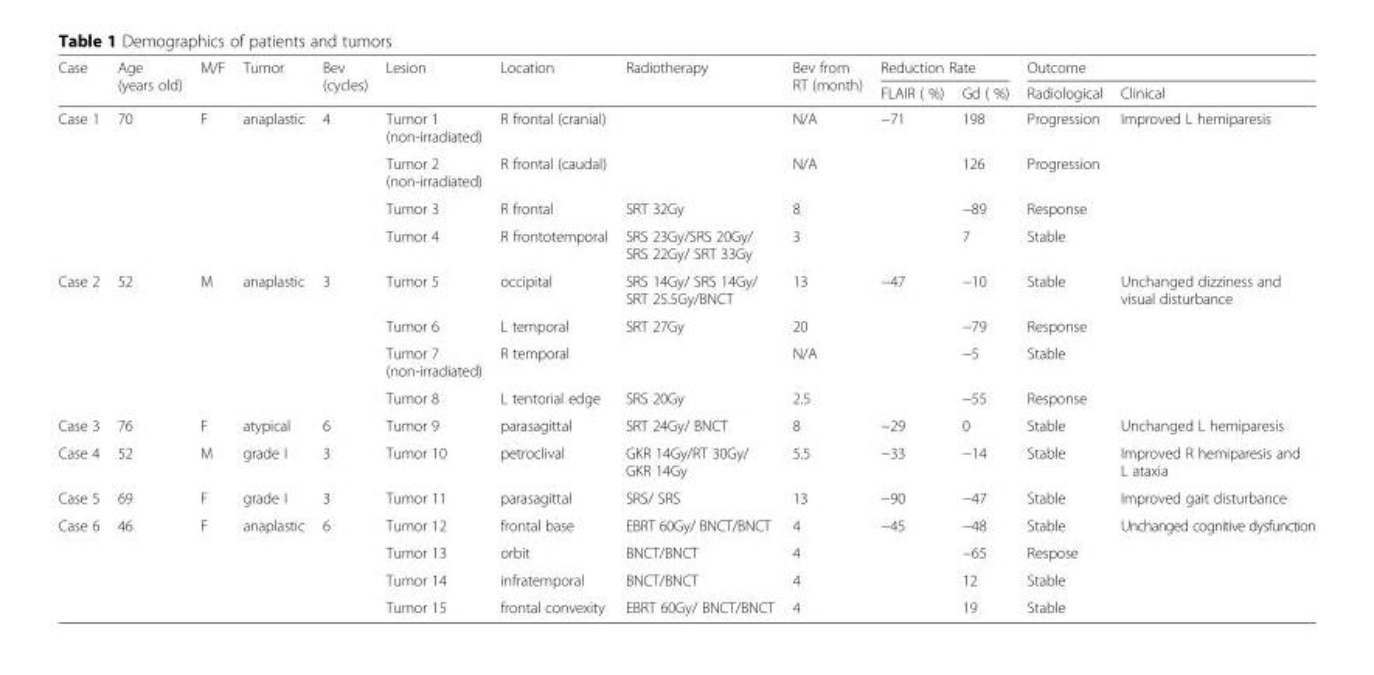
<table><thead><tr><td rowspan="2">Case</td><td rowspan="2">Age (years old)</td><td rowspan="2">M/F</td><td rowspan="2">Tumor</td><td rowspan="2">Bev (cycles)</td><td rowspan="2">Lesion</td><td rowspan="2">Location</td><td rowspan="2">Radiotherapy</td><td rowspan="2">Bev from RT (month)</td><td colspan="2">Reduction Rate</td><td colspan="2">Outcome</td></tr><tr><td>FLAIR ( %)</td><td>Gd ( %)</td><td>Radiological</td><td>Clinical</td></tr></thead><tbody><tr><td rowspan="4">Case 1</td><td rowspan="4">70</td><td rowspan="4">F</td><td rowspan="4">anaplastic</td><td rowspan="4">4</td><td>Tumor 1 (non-irradiated)</td><td>R frontal (cranial)</td><td></td><td>N/A</td><td rowspan="4">−71</td><td>198</td><td>Progression</td><td rowspan="4">Improved L hemiparesis</td></tr><tr><td>Tumor 2 (non-irradiated)</td><td>R frontal (caudal)</td><td></td><td>N/A</td><td>126</td><td>Progression</td></tr><tr><td>Tumor 3</td><td>R frontal</td><td>SRT 32Gy</td><td>8</td><td>−89</td><td>Response</td></tr><tr><td>Tumor 4</td><td>R frontotemporal</td><td>SRS 23Gy/SRS 20Gy/ SRS 22Gy/ SRT 33Gy</td><td>3</td><td>7</td><td>Stable</td></tr><tr><td rowspan="4">Case 2</td><td rowspan="4">52</td><td rowspan="4">M</td><td rowspan="4">anaplastic</td><td rowspan="4">3</td><td>Tumor 5</td><td>occipital</td><td>SRS 14Gy/ SRS 14Gy/ SRT 25.5Gy/BNCT</td><td>13</td><td rowspan="4">−47</td><td>−10</td><td>Stable</td><td rowspan="4">Unchanged dizziness and visual disturbance</td></tr><tr><td>Tumor 6</td><td>L temporal</td><td>SRT 27Gy</td><td>20</td><td>−79</td><td>Response</td></tr><tr><td>Tumor 7 (non-irradiated)</td><td>R temporal</td><td></td><td>N/A</td><td>−5</td><td>Stable</td></tr><tr><td>Tumor 8</td><td>L tentorial edge</td><td>SRS 20Gy</td><td>2.5</td><td>−55</td><td>Response</td></tr><tr><td>Case 3</td><td>76</td><td>F</td><td>atypical</td><td>6</td><td>Tumor 9</td><td>parasagittal</td><td>SRT 24Gy/ BNCT</td><td>8</td><td>−29</td><td>0</td><td>Stable</td><td>Unchanged L hemiparesis</td></tr><tr><td>Case 4</td><td>52</td><td>M</td><td>grade I</td><td>3</td><td>Tumor 10</td><td>petroclival</td><td>GKR 14Gy/RT 30Gy/ GKR 14Gy</td><td>5.5</td><td>−33</td><td>−14</td><td>Stable</td><td>Improved R hemiparesis and L ataxia</td></tr><tr><td>Case 5</td><td>69</td><td>F</td><td>grade I</td><td>3</td><td>Tumor 11</td><td>parasagittal</td><td>SRS/ SRS</td><td>13</td><td>−90</td><td>−47</td><td>Stable</td><td>Improved gait disturbance</td></tr><tr><td rowspan="4">Case 6</td><td rowspan="4">46</td><td rowspan="4">F</td><td rowspan="4">anaplastic</td><td rowspan="4">6</td><td>Tumor 12</td><td>frontal base</td><td>EBRT 60Gy/ BNCT/BNCT</td><td>4</td><td rowspan="4">−45</td><td>−48</td><td>Stable</td><td rowspan="4">Unchanged cognitive dysfunction</td></tr><tr><td>Tumor 13</td><td>orbit</td><td>BNCT/BNCT</td><td>4</td><td>−65</td><td>Respose</td></tr><tr><td>Tumor 14</td><td>infratemporal</td><td>BNCT/BNCT</td><td>4</td><td>12</td><td>Stable</td></tr><tr><td>Tumor 15</td><td>frontal convexity</td><td>EBRT 60Gy/ BNCT/BNCT</td><td>4</td><td>19</td><td>Stable</td></tr></tbody></table>